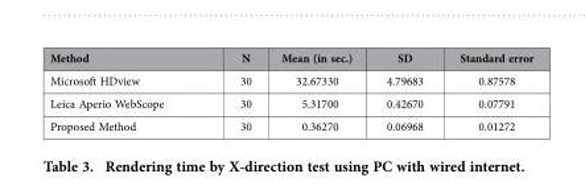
<table><thead><tr><td>Method</td><td>N</td><td>Mean (in sec.)</td><td>SD</td><td>Standard error</td></tr></thead><tbody><tr><td>Microsoft HDview</td><td>30</td><td>32.67330</td><td>4.79683</td><td>0.87578</td></tr><tr><td>Leica Aperio WebScope</td><td>30</td><td>5.31700</td><td>0.42670</td><td>0.07791</td></tr><tr><td>Proposed Method</td><td>30</td><td>0.36270</td><td>0.06968</td><td>0.01272</td></tr></tbody></table>